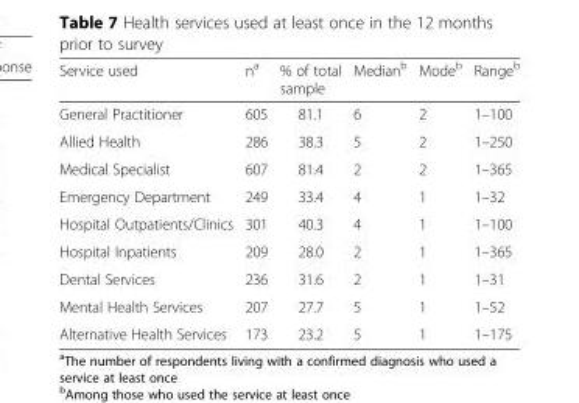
<table><thead><tr><td>Service used</td><td>n<sup>a</sup></td><td>% of total sample</td><td>Median<sup>b</sup></td><td>Mode<sup>b</sup></td><td>Range<sup>b</sup></td></tr></thead><tbody><tr><td>General Practitioner</td><td>605</td><td>81.1</td><td>6</td><td>2</td><td>1–100</td></tr><tr><td>Allied Health</td><td>286</td><td>38.3</td><td>5</td><td>2</td><td>1–250</td></tr><tr><td>Medical Specialist</td><td>607</td><td>81.4</td><td>2</td><td>2</td><td>1–365</td></tr><tr><td>Emergency Department</td><td>249</td><td>33.4</td><td>4</td><td>1</td><td>1–32</td></tr><tr><td>Hospital Outpatients/Clinics</td><td>301</td><td>40.3</td><td>4</td><td>1</td><td>1–100</td></tr><tr><td>Hospital Inpatients</td><td>209</td><td>28.0</td><td>2</td><td>1</td><td>1–365</td></tr><tr><td>Dental Services</td><td>236</td><td>31.6</td><td>2</td><td>1</td><td>1–31</td></tr><tr><td>Mental Health Services</td><td>207</td><td>27.7</td><td>5</td><td>1</td><td>1–52</td></tr><tr><td>Alternative Health Services</td><td>173</td><td>23.2</td><td>5</td><td>1</td><td>1–175</td></tr></tbody></table>